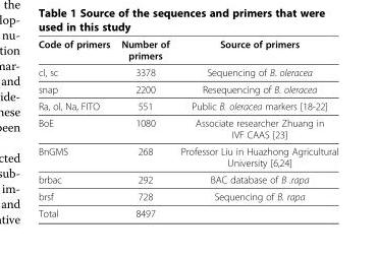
<table><thead><tr><td>Code of primers</td><td>Number of primers</td><td>Source of primers</td></tr></thead><tbody><tr><td>cl, sc</td><td>3378</td><td>Sequencing of B. oleracea</td></tr><tr><td>snap</td><td>2200</td><td>Resequencing of B. oleracea</td></tr><tr><td>Ra, ol, Na, FITO</td><td>551</td><td>Public B. oleracea markers [18-22]</td></tr><tr><td>BoE</td><td>1080</td><td>Associate researcher Zhuang in IVF CAAS [23]</td></tr><tr><td>BnGMS</td><td>268</td><td>Professor Liu in Huazhong Agricultural University [6,24]</td></tr><tr><td>brbac</td><td>292</td><td>BAC database of B .rapa</td></tr><tr><td>brsf</td><td>728</td><td>Sequencing of B. rapa</td></tr><tr><td>Total</td><td>8497</td><td></td></tr></tbody></table>